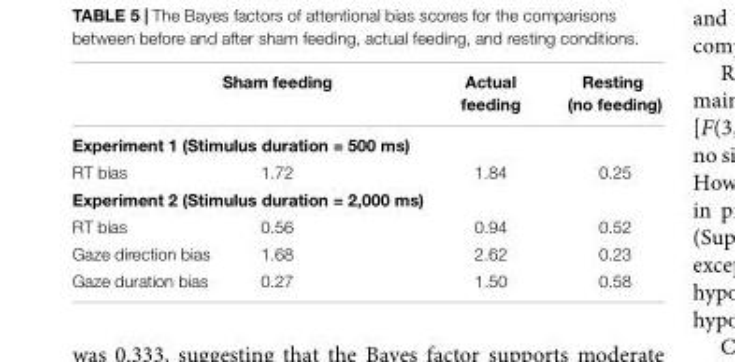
<table><thead><tr><td></td><td>Sham feeding</td><td>Actual feeding</td><td>Resting (no feeding)</td></tr></thead><tbody><tr><td colspan="4">Experiment 1 (Stimulus duration = 500 ms)</td></tr><tr><td>RT bias</td><td>1.72</td><td>1.84</td><td>0.25</td></tr><tr><td colspan="4">Experiment 2 (Stimulus duration = 2,000 ms)</td></tr><tr><td>RT bias</td><td>0.56</td><td>0.94</td><td>0.52</td></tr><tr><td>Gaze direction bias</td><td>1.68</td><td>2.62</td><td>0.23</td></tr><tr><td>Gaze duration bias</td><td>0.27</td><td>1.50</td><td>0.58</td></tr></tbody></table>